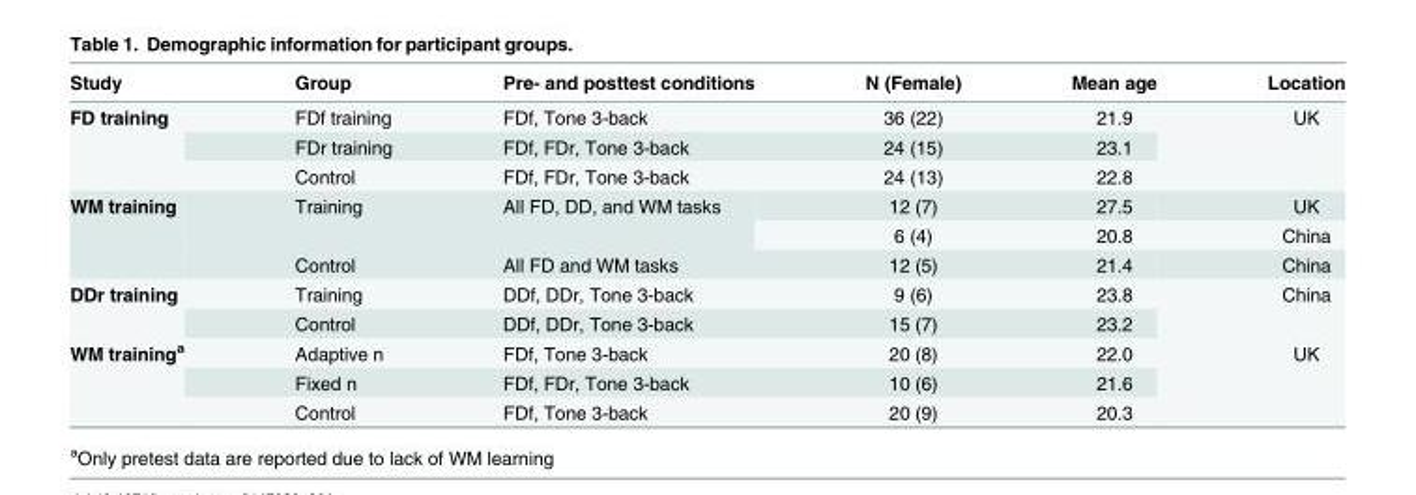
<table><thead><tr><td>Study</td><td>Group</td><td>Pre- and posttest conditions</td><td>N (Female)</td><td>Mean age</td><td>Location</td></tr></thead><tbody><tr><td rowspan="3">FD training</td><td>FDf training</td><td>FDf, Tone 3-back</td><td>36 (22)</td><td>21.9</td><td rowspan="3">UK</td></tr><tr><td>FDr training</td><td>FDf, FDr, Tone 3-back</td><td>24 (15)</td><td>23.1</td></tr><tr><td>Control</td><td>FDf, FDr, Tone 3-back</td><td>24 (13)</td><td>22.8</td></tr><tr><td rowspan="3">WM training</td><td rowspan="2">Training</td><td rowspan="2">All FD, DD, and WM tasks</td><td>12 (7)</td><td>27.5</td><td>UK</td></tr><tr><td>6 (4)</td><td>20.8</td><td>China</td></tr><tr><td>Control</td><td>All FD and WM tasks</td><td>12 (5)</td><td>21.4</td><td>China</td></tr><tr><td rowspan="2">DDr training</td><td>Training</td><td>DDf, DDr, Tone 3-back</td><td>9 (6)</td><td>23.8</td><td rowspan="2">China</td></tr><tr><td>Control</td><td>DDf, DDr, Tone 3-back</td><td>15 (7)</td><td>23.2</td></tr><tr><td rowspan="3">WM training<sup>a</sup></td><td>Adaptive n</td><td>FDf, Tone 3-back</td><td>20 (8)</td><td>22.0</td><td rowspan="3">UK</td></tr><tr><td>Fixed n</td><td>FDf, FDr, Tone 3-back</td><td>10 (6)</td><td>21.6</td></tr><tr><td>Control</td><td>FDf, Tone 3-back</td><td>20 (9)</td><td>20.3</td></tr></tbody></table>